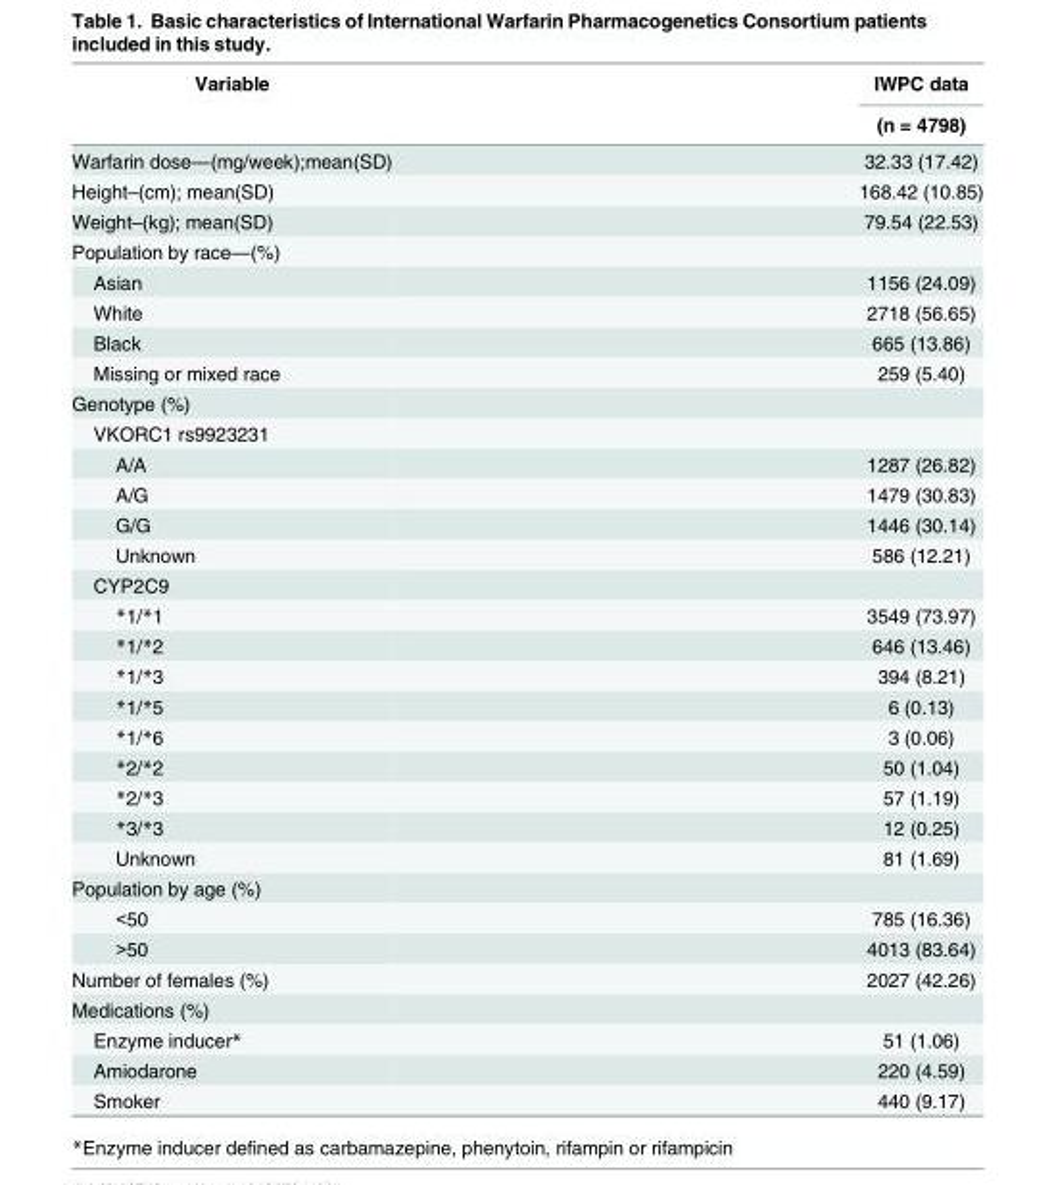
<table><thead><tr><td rowspan="2">Variable</td><td rowspan="2">IWPC data (n = 4798)</td></tr><tr></tr></thead><tbody><tr><td>Warfarin dose—(mg/week);mean(SD)</td><td>32.33 (17.42)</td></tr><tr><td>Height–(cm); mean(SD)</td><td>168.42 (10.85)</td></tr><tr><td>Weight–(kg); mean(SD)</td><td>79.54 (22.53)</td></tr><tr><td colspan="2">Population by race—(%)</td></tr><tr><td>Asian</td><td>1156 (24.09)</td></tr><tr><td>White</td><td>2718 (56.65)</td></tr><tr><td>Black</td><td>665 (13.86)</td></tr><tr><td>Missing or mixed race</td><td>259 (5.40)</td></tr><tr><td colspan="2">Genotype (%)</td></tr><tr><td colspan="2">VKORC1 rs9923231</td></tr><tr><td>A/A</td><td>1287 (26.82)</td></tr><tr><td>A/G</td><td>1479 (30.83)</td></tr><tr><td>G/G</td><td>1446 (30.14)</td></tr><tr><td>Unknown</td><td>586 (12.21)</td></tr><tr><td colspan="2">CYP2C9</td></tr><tr><td>*1/*1</td><td>3549 (73.97)</td></tr><tr><td>*1/*2</td><td>646 (13.46)</td></tr><tr><td>*1/*3</td><td>394 (8.21)</td></tr><tr><td>*1/*5</td><td>6 (0.13)</td></tr><tr><td>*1/*6</td><td>3 (0.06)</td></tr><tr><td>*2/*2</td><td>50 (1.04)</td></tr><tr><td>*2/*3</td><td>57 (1.19)</td></tr><tr><td>*3/*3</td><td>12 (0.25)</td></tr><tr><td>Unknown</td><td>81 (1.69)</td></tr><tr><td colspan="2">Population by age (%)</td></tr><tr><td>&lt;50</td><td>785 (16.36)</td></tr><tr><td>&gt;50</td><td>4013 (83.64)</td></tr><tr><td>Number of females (%)</td><td>2027 (42.26)</td></tr><tr><td colspan="2">Medications (%)</td></tr><tr><td>Enzyme inducer*</td><td>51 (1.06)</td></tr><tr><td>Amiodarone</td><td>220 (4.59)</td></tr><tr><td>Smoker</td><td>440 (9.17)</td></tr></tbody></table>